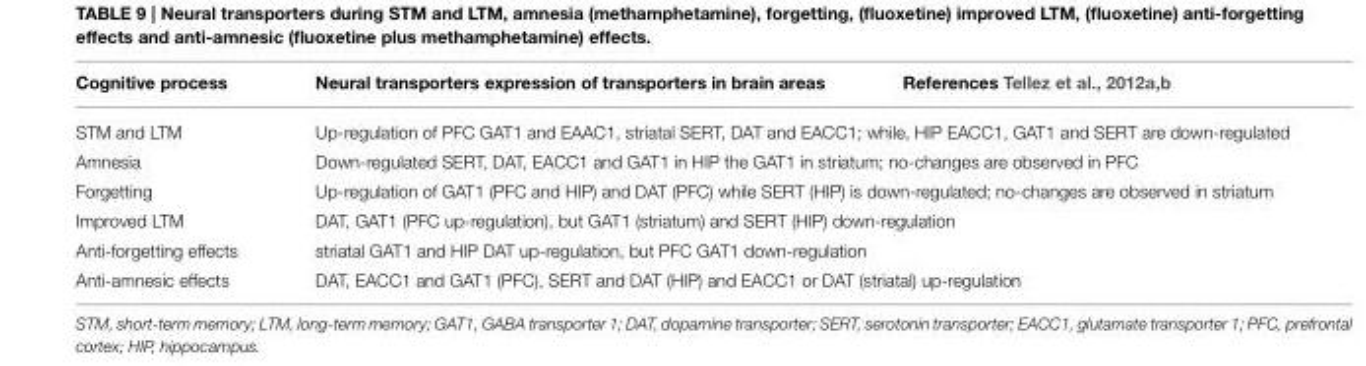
<table><thead><tr><td>Cognitive process</td><td>Neural transporters expression of transporters in brain areas</td><td>References Tellez et al., 2012a,b</td></tr></thead><tbody><tr><td>STM and LTM</td><td colspan="2">Up-regulation of PFC GAT1 and EAAC1, striatal SERT, DAT and EACC1; while, HIP EACC1, GAT1 and SERT are down-regulated</td></tr><tr><td>Amnesia</td><td colspan="2">Down-regulated SERT, DAT, EACC1 and GAT1 in HIP the GAT1 in striatum; no-changes are observed in PFC</td></tr><tr><td>Forgetting</td><td colspan="2">Up-regulation of GAT1 (PFC and HIP) and DAT (PFC) while SERT (HIP) is down-regulated; no-changes are observed in striatum</td></tr><tr><td>Improved LTM</td><td colspan="2">DAT, GAT1 (PFC up-regulation), but GAT1 (striatum) and SERT (HIP) down-regulation</td></tr><tr><td>Anti-forgetting effects</td><td colspan="2">striatal GAT1 and HIP DAT up-regulation, but PFC GAT1 down-regulation</td></tr><tr><td>Anti-amnesic effects</td><td colspan="2">DAT, EACC1 and GAT1 (PFC), SERT and DAT (HIP) and EACC1 or DAT (striatal) up-regulation</td></tr></tbody></table>